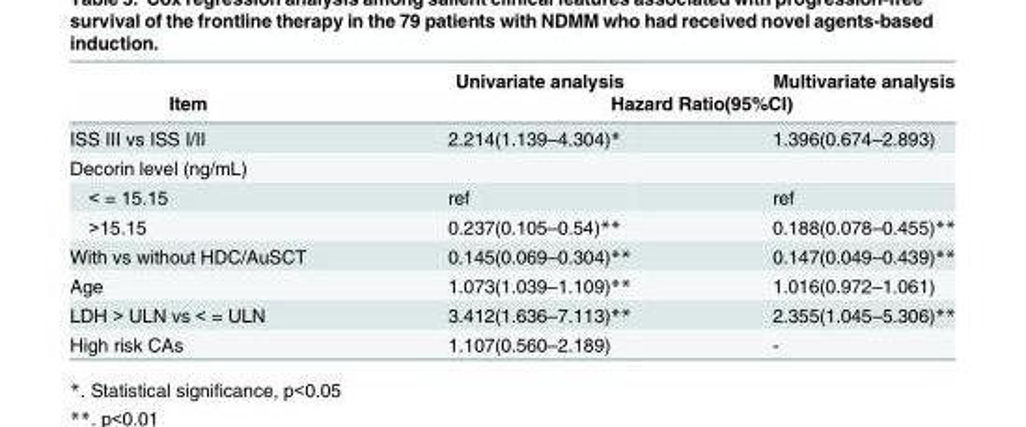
<table><thead><tr><td rowspan="2">Item</td><td>Univariate analysis</td><td>Multivariate analysis</td></tr><tr><td colspan="2">Hazard Ratio(95%CI)</td></tr></thead><tbody><tr><td>ISS III vs ISS I/II</td><td>2.214(1.139–4.304)*</td><td>1.396(0.674–2.893)</td></tr><tr><td colspan="3">Decorin level (ng/mL)</td></tr><tr><td>&lt; = 15.15</td><td>ref</td><td>ref</td></tr><tr><td>&gt;15.15</td><td>0.237(0.105–0.54)**</td><td>0.188(0.078–0.455)**</td></tr><tr><td>With vs without HDC/AuSCT</td><td>0.145(0.069–0.304)**</td><td>0.147(0.049–0.439)**</td></tr><tr><td>Age</td><td>1.073(1.039–1.109)**</td><td>1.016(0.972–1.061)</td></tr><tr><td>LDH &gt; ULN vs &lt; = ULN</td><td>3.412(1.636–7.113)**</td><td>2.355(1.045–5.306)**</td></tr><tr><td>High risk CAs</td><td>1.107(0.560–2.189)</td><td>-</td></tr></tbody></table>